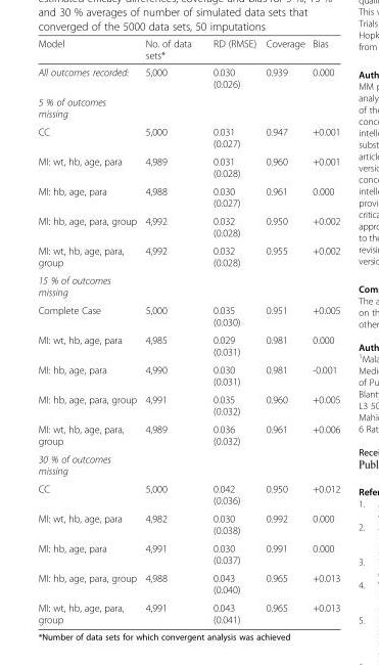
<table><thead><tr><td>Model</td><td>No. of data sets*</td><td>RD (RMSE)</td><td>Coverage</td><td>Bias</td></tr></thead><tbody><tr><td>All outcomes recorded:</td><td>5,000</td><td>0.030 (0.026)</td><td>0.939</td><td>0.000</td></tr><tr><td colspan="5">5 % of outcomes missing</td></tr><tr><td>CC</td><td>5,000</td><td>0.031 (0.027)</td><td>0.947</td><td>+0.001</td></tr><tr><td>MI: wt, hb, age, para</td><td>4,989</td><td>0.031 (0.028)</td><td>0.960</td><td>+0.001</td></tr><tr><td>MI: hb, age, para</td><td>4,988</td><td>0.030 (0.027)</td><td>0.961</td><td>0.000</td></tr><tr><td>MI: hb, age, para, group</td><td>4,992</td><td>0.032 (0.028)</td><td>0.950</td><td>+0.002</td></tr><tr><td>MI: wt, hb, age, para, group</td><td>4,992</td><td>0.032 (0.028)</td><td>0.955</td><td>+0.002</td></tr><tr><td colspan="5">15 % of outcomes missing</td></tr><tr><td>Complete Case</td><td>5,000</td><td>0.035 (0.030)</td><td>0.951</td><td>+0.005</td></tr><tr><td>MI: wt, hb, age, para</td><td>4,985</td><td>0.029 (0.031)</td><td>0.981</td><td>0.000</td></tr><tr><td>MI: hb, age, para</td><td>4,990</td><td>0.030 (0.031)</td><td>0.981</td><td>-0.001</td></tr><tr><td>MI: hb, age, para, group</td><td>4,991</td><td>0.035 (0.032)</td><td>0.960</td><td>+0.005</td></tr><tr><td>MI: wt, hb, age, para, group</td><td>4,989</td><td>0.036 (0.032)</td><td>0.961</td><td>+0.006</td></tr><tr><td colspan="5">30 % of outcomes missing</td></tr><tr><td>CC</td><td>5,000</td><td>0.042 (0.036)</td><td>0.950</td><td>+0.012</td></tr><tr><td>MI: wt, hb, age, para</td><td>4,982</td><td>0.030 (0.038)</td><td>0.992</td><td>0.000</td></tr><tr><td>MI: hb, age, para</td><td>4,991</td><td>0.030 (0.037)</td><td>0.991</td><td>0.000</td></tr><tr><td>MI: hb, age, para, group</td><td>4,988</td><td>0.043 (0.040)</td><td>0.965</td><td>+0.013</td></tr><tr><td>MI: wt, hb, age, para, group</td><td>4,991</td><td>0.043 (0.041)</td><td>0.965</td><td>+0.013</td></tr></tbody></table>